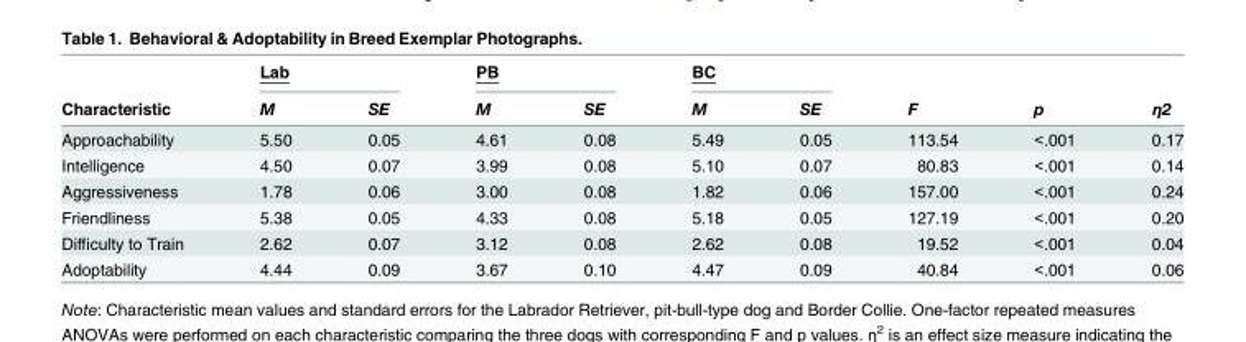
<table><thead><tr><td rowspan="2">Characteristic</td><td colspan="2">Lab</td><td colspan="2">PB</td><td colspan="2">BC</td><td rowspan="2">F</td><td rowspan="2">p</td><td rowspan="2">η2</td></tr><tr><td>M</td><td>SE</td><td>M</td><td>SE</td><td>M</td><td>SE</td></tr></thead><tbody><tr><td>Approachability</td><td>5.50</td><td>0.05</td><td>4.61</td><td>0.08</td><td>5.49</td><td>0.05</td><td>113.54</td><td>&lt;.001</td><td>0.17</td></tr><tr><td>Intelligence</td><td>4.50</td><td>0.07</td><td>3.99</td><td>0.08</td><td>5.10</td><td>0.07</td><td>80.83</td><td>&lt;.001</td><td>0.14</td></tr><tr><td>Aggressiveness</td><td>1.78</td><td>0.06</td><td>3.00</td><td>0.08</td><td>1.82</td><td>0.06</td><td>157.00</td><td>&lt;.001</td><td>0.24</td></tr><tr><td>Friendliness</td><td>5.38</td><td>0.05</td><td>4.33</td><td>0.08</td><td>5.18</td><td>0.05</td><td>127.19</td><td>&lt;.001</td><td>0.20</td></tr><tr><td>Difficulty to Train</td><td>2.62</td><td>0.07</td><td>3.12</td><td>0.08</td><td>2.62</td><td>0.08</td><td>19.52</td><td>&lt;.001</td><td>0.04</td></tr><tr><td>Adoptability</td><td>4.44</td><td>0.09</td><td>3.67</td><td>0.10</td><td>4.47</td><td>0.09</td><td>40.84</td><td>&lt;.001</td><td>0.06</td></tr></tbody></table>